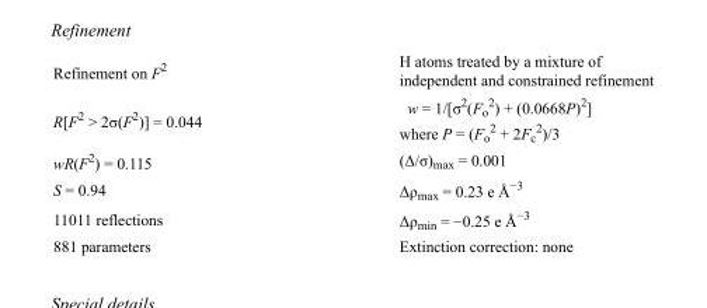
<table><tbody><tr><td>Refinement on F<sup>2</sup></td><td>H atoms treated by a mixture of independent and constrained refinement</td></tr><tr><td>R[F<sup>2</sup> &gt; 2σ(F<sup>2</sup>)] = 0.044</td><td>w = 1/[σ<sup>2</sup>(F<sub>o</sub> <sup>2</sup>) + (0.0668P)<sup>2</sup>] where P = (F<sub>o</sub> <sup>2</sup> + 2F<sub>c</sub> <sup>2</sup>)/3</td></tr><tr><td>wR(F<sup>2</sup>) = 0.115</td><td>(Δ/σ)<sub>max</sub> = 0.001</td></tr><tr><td>S = 0.94</td><td>Δρ<sub>max</sub> = 0.23 e Å<sup>−3</sup></td></tr><tr><td>11011 reflections</td><td>Δρ<sub>min</sub> = −0.25 e Å<sup>−3</sup></td></tr><tr><td>881 parameters</td><td>Extinction correction: none</td></tr></tbody></table>